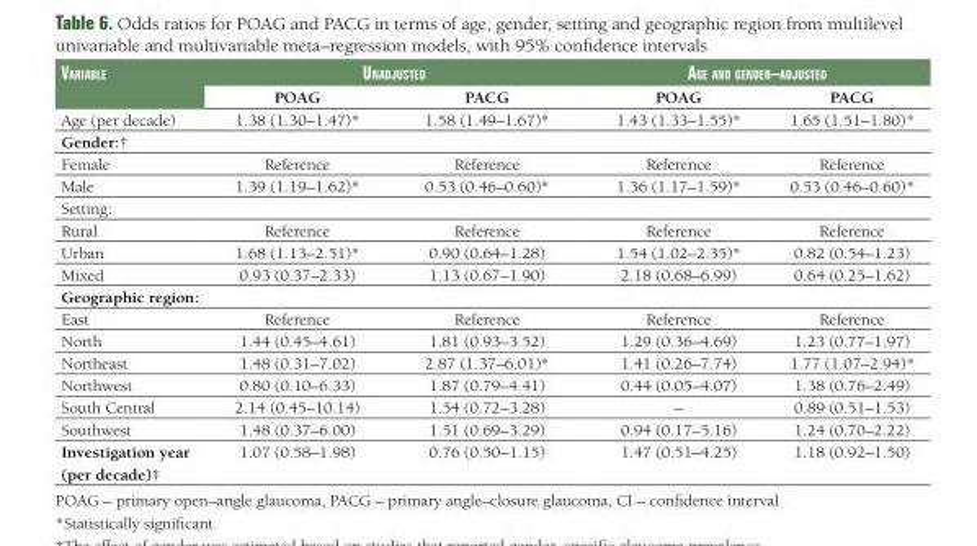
<table><thead><tr><td rowspan="2">vaRiable</td><td colspan="2">unadjusted</td><td colspan="2">age and gendeR–adjusted</td></tr><tr><td>POAG</td><td>PACG</td><td>POAG</td><td>PACG</td></tr></thead><tbody><tr><td>Age (per decade)</td><td>1.38 (1.30–1.47)*</td><td>1.58 (1.49–1.67)*</td><td>1.43 (1.33–1.55)*</td><td>1.65 (1.51–1.80)*</td></tr><tr><td colspan="5">Gender:†</td></tr><tr><td>Female</td><td>Reference</td><td>Reference</td><td>Reference</td><td>Reference</td></tr><tr><td>Male</td><td>1.39 (1.19–1.62)*</td><td>0.53 (0.46–0.60)*</td><td>1.36 (1.17–1.59)*</td><td>0.53 (0.46–0.60)*</td></tr><tr><td colspan="5">Setting:</td></tr><tr><td>Rural</td><td>Reference</td><td>Reference</td><td>Reference</td><td>Reference</td></tr><tr><td>Urban</td><td>1.68 (1.13–2.51)*</td><td>0.90 (0.64–1.28)</td><td>1.54 (1.02–2.35)*</td><td>0.82 (0.54–1.23)</td></tr><tr><td>Mixed</td><td>0.93 (0.37–2.33)</td><td>1.13 (0.67–1.90)</td><td>2.18 (0.68–6.99)</td><td>0.64 (0.25–1.62)</td></tr><tr><td colspan="5">Geographic region:</td></tr><tr><td>East</td><td>Reference</td><td>Reference</td><td>Reference</td><td>Reference</td></tr><tr><td>North</td><td>1.44 (0.45–4.61)</td><td>1.81 (0.93–3.52)</td><td>1.29 (0.36–4.69)</td><td>1.23 (0.77–1.97)</td></tr><tr><td>Northeast</td><td>1.48 (0.31–7.02)</td><td>2.87 (1.37–6.01)*</td><td>1.41 (0.26–7.74)</td><td>1.77 (1.07–2.94)*</td></tr><tr><td>Northwest</td><td>0.80 (0.10–6.33)</td><td>1.87 (0.79–4.41)</td><td>0.44 (0.05–4.07)</td><td>1.38 (0.76–2.49)</td></tr><tr><td>South Central</td><td>2.14 (0.45–10.14)</td><td>1.54 (0.72–3.28)</td><td>–</td><td>0.89 (0.51–1.53)</td></tr><tr><td>Southwest</td><td>1.48 (0.37–6.00)</td><td>1.51 (0.69–3.29)</td><td>0.94 (0.17–5.16)</td><td>1.24 (0.70–2.22)</td></tr><tr><td>Investigation year (per decade)‡</td><td>1.07 (0.58–1.98)</td><td>0.76 (0.50–1.15)</td><td>1.47 (0.51–4.25)</td><td>1.18 (0.92–1.50)</td></tr></tbody></table>